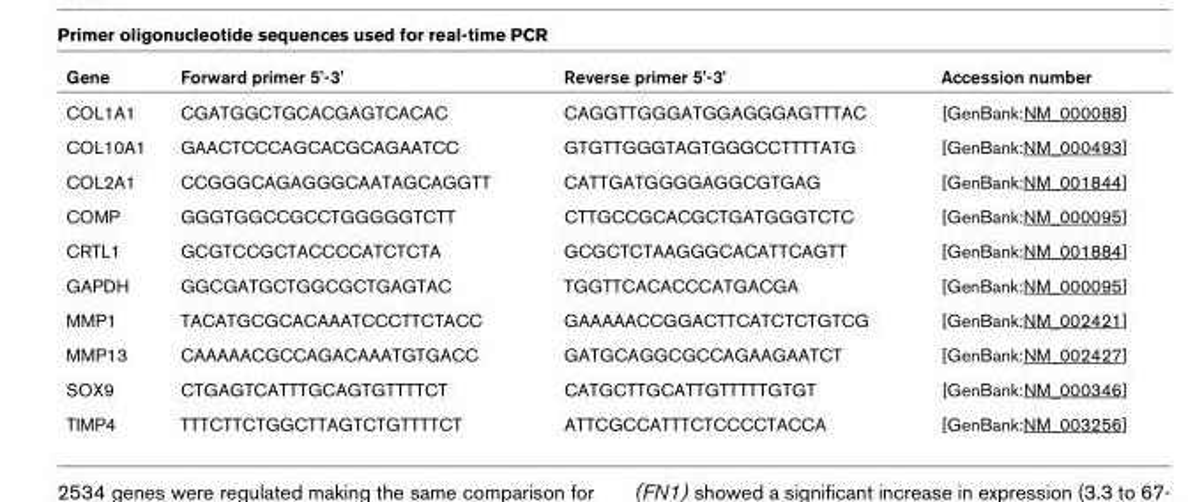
<table><thead><tr><td>Gene</td><td>Forward primer 5&#x27;-3&#x27;</td><td>Reverse primer 5&#x27;-3&#x27;</td><td>Accession number</td></tr></thead><tbody><tr><td>COL1A1</td><td>CGATGGCTGCACGAGTCACAC</td><td>CAGGTTGGGATGGAGGGAGTTTAC</td><td>[GenBank:NM_000088]</td></tr><tr><td>COL10A1</td><td>GAACTCCCAGCACGCAGAATCC</td><td>GTGTTGGGTAGTGGGCCTTTTATG</td><td>[GenBank:NM_000493]</td></tr><tr><td>COL2A1</td><td>CCGGGCAGAGGGCAATAGCAGGTT</td><td>CATTGATGGGGAGGCGTGAG</td><td>[GenBank:NM_001844]</td></tr><tr><td>COMP</td><td>GGGTGGCCGCCTGGGGGTCTT</td><td>CTTGCCGCACGCTGATGGGTCTC</td><td>[GenBank:NM_000095]</td></tr><tr><td>CRTL1</td><td>GCGTCCGCTACCCCATCTCTA</td><td>GCGCTCTAAGGGCACATTCAGTT</td><td>[GenBank:NM_001884]</td></tr><tr><td>GAPDH</td><td>GGCGATGCTGGCGCTGAGTAC</td><td>TGGTTCACACCCATGACGA</td><td>[GenBank:NM_000095]</td></tr><tr><td>MMP1</td><td>TACATGCGCACAAATCCCTTCTACC</td><td>GAAAAACCGGACTTCATCTCTGTCG</td><td>[GenBank:NM_002421]</td></tr><tr><td>MMP13</td><td>CAAAAACGCCAGACAAATGTGACC</td><td>GATGCAGGCGCCAGAAGAATCT</td><td>[GenBank:NM_002427]</td></tr><tr><td>SOX9</td><td>CTGAGTCATTTGCAGTGTTTTCT</td><td>CATGCTTGCATTGTTTTTGTGT</td><td>[GenBank:NM_000346]</td></tr><tr><td>TIMP4</td><td>TTTCTTCTGGCTTAGTCTGTTTTCT</td><td>ATTCGCCATTTCTCCCCTACCA</td><td>[GenBank:NM_003256]</td></tr></tbody></table>